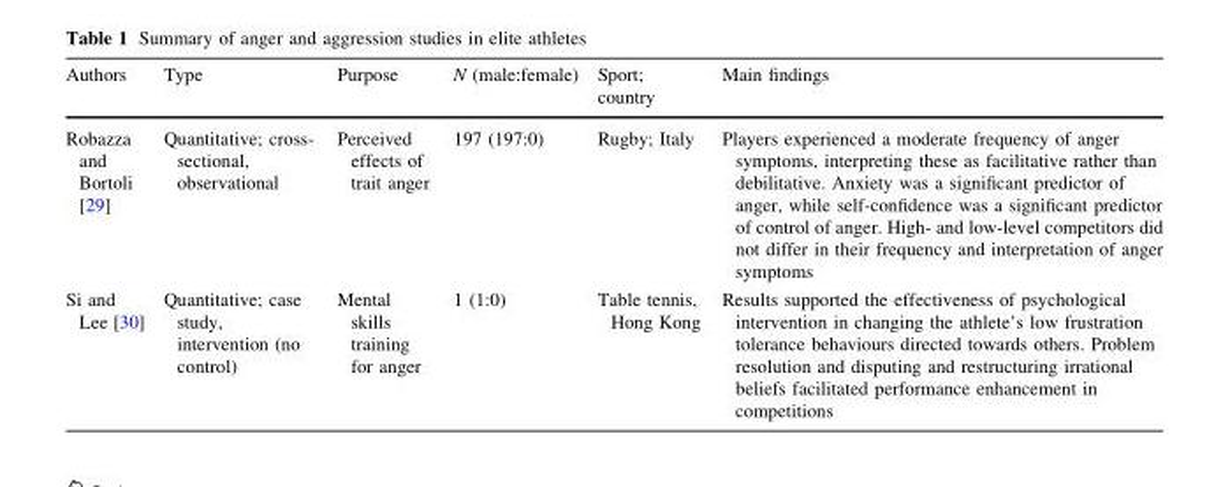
<table><thead><tr><td>Authors</td><td>Type</td><td>Purpose</td><td>N (male:female)</td><td>Sport; country</td><td>Main findings</td></tr></thead><tbody><tr><td>Robazza and Bortoli [29]</td><td>Quantitative; cross- sectional, observational</td><td>Perceived effects of trait anger</td><td>197 (197:0)</td><td>Rugby; Italy</td><td>Players experienced a moderate frequency of anger symptoms, interpreting these as facilitative rather than debilitative. Anxiety was a significant predictor of anger, while self-confidence was a significant predictor of control of anger. High- and low-level competitors did not differ in their frequency and interpretation of anger symptoms</td></tr><tr><td>Si and Lee [30]</td><td>Quantitative; case study, intervention (no control)</td><td>Mental skills training for anger</td><td>1 (1:0)</td><td>Table tennis, Hong Kong</td><td>Results supported the effectiveness of psychological intervention in changing the athlete’s low frustration tolerance behaviours directed towards others. Problem resolution and disputing and restructuring irrational beliefs facilitated performance enhancement in competitions</td></tr></tbody></table>